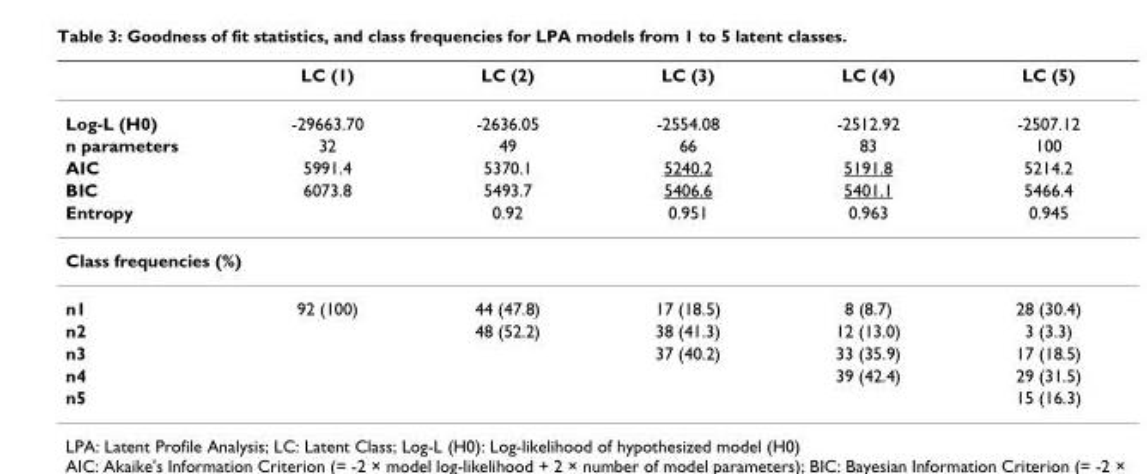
<table><thead><tr><td></td><td>LC (1)</td><td>LC (2)</td><td>LC (3)</td><td>LC (4)</td><td>LC (5)</td></tr></thead><tbody><tr><td>Log-L (H0)</td><td>-29663.70</td><td>-2636.05</td><td>-2554.08</td><td>-2512.92</td><td>-2507.12</td></tr><tr><td>n parameters</td><td>32</td><td>49</td><td>66</td><td>83</td><td>100</td></tr><tr><td>AIC</td><td>5991.4</td><td>5370.1</td><td>5240.2</td><td>5191.8</td><td>5214.2</td></tr><tr><td>BIC</td><td>6073.8</td><td>5493.7</td><td>5406.6</td><td>5401.1</td><td>5466.4</td></tr><tr><td>Entropy</td><td></td><td>0.92</td><td>0.951</td><td>0.963</td><td>0.945</td></tr><tr><td colspan="6">Class frequencies (%)</td></tr><tr><td>n1</td><td>92 (100)</td><td>44 (47.8)</td><td>17 (18.5)</td><td>8 (8.7)</td><td>28 (30.4)</td></tr><tr><td>n2</td><td></td><td>48 (52.2)</td><td>38 (41.3)</td><td>12 (13.0)</td><td>3 (3.3)</td></tr><tr><td>n3</td><td></td><td></td><td>37 (40.2)</td><td>33 (35.9)</td><td>17 (18.5)</td></tr><tr><td>n4</td><td></td><td></td><td></td><td>39 (42.4)</td><td>29 (31.5)</td></tr><tr><td>n5</td><td></td><td></td><td></td><td></td><td>15 (16.3)</td></tr></tbody></table>